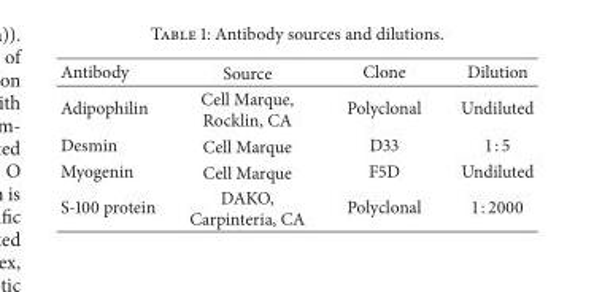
<table><thead><tr><td>Antibody</td><td>Source</td><td>Clone</td><td>Dilution</td></tr></thead><tbody><tr><td>Adipophilin</td><td>Cell Marque, Rocklin, CA</td><td>Polyclonal</td><td>Undiluted</td></tr><tr><td>Desmin</td><td>Cell Marque</td><td>D33</td><td>1 : 5</td></tr><tr><td>Myogenin</td><td>Cell Marque</td><td>F5D</td><td>Undiluted</td></tr><tr><td>S-100 protein</td><td>DAKO, Carpinteria, CA</td><td>Polyclonal</td><td>1 : 2000</td></tr></tbody></table>